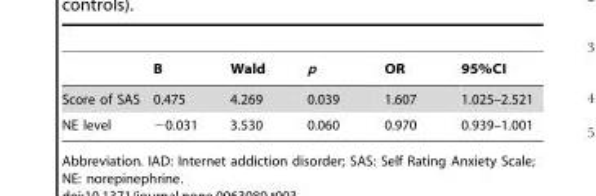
<table><thead><tr><td></td><td>B</td><td>Wald</td><td>p</td><td>OR</td><td>95%CI</td></tr></thead><tbody><tr><td>Score of SAS</td><td>0.475</td><td>4.269</td><td>0.039</td><td>1.607</td><td>1.025–2.521</td></tr><tr><td>NE level</td><td>−0.031</td><td>3.530</td><td>0.060</td><td>0.970</td><td>0.939–1.001</td></tr></tbody></table>